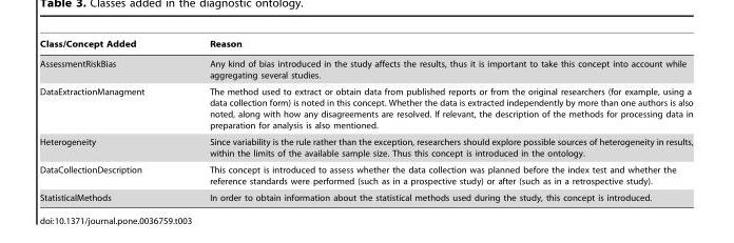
<table><thead><tr><td>Class/Concept Added</td><td>Reason</td></tr></thead><tbody><tr><td>AssessmentRiskBias</td><td>Any kind of bias introduced in the study affects the results, thus it is important to take this concept into account while aggregating several studies.</td></tr><tr><td>DataExtractionManagment</td><td>The method used to extract or obtain data from published reports or from the original researchers (for example, using a data collection form) is noted in this concept. Whether the data is extracted independently by more than one authors is also noted, along with how any disagreements are resolved. If relevant, the description of the methods for processing data in preparation for analysis is also mentioned.</td></tr><tr><td>Heterogeneity</td><td>Since variability is the rule rather than the exception, researchers should explore possible sources of heterogeneity in results, within the limits of the available sample size. Thus this concept is introduced in the ontology.</td></tr><tr><td>DataCollectionDescription</td><td>This concept is introduced to assess whether the data collection was planned before the index test and whether the reference standards were performed (such as in a prospective study) or after (such as in a retrospective study).</td></tr><tr><td>StatisticalMethods</td><td>In order to obtain information about the statistical methods used during the study, this concept is introduced.</td></tr></tbody></table>